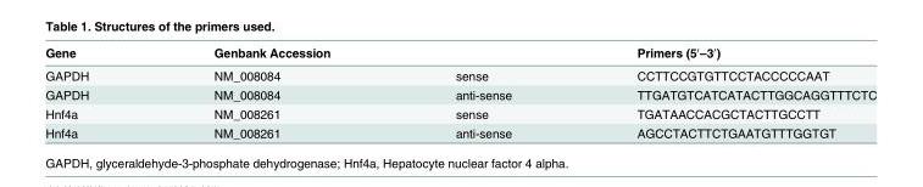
<table><thead><tr><td>Gene</td><td>Genbank Accession</td><td></td><td>Primers (5′–3′)</td></tr></thead><tbody><tr><td>GAPDH</td><td>NM_008084</td><td>sense</td><td>CCTTCCGTGTTCCTACCCCCAAT</td></tr><tr><td>GAPDH</td><td>NM_008084</td><td>anti-sense</td><td>TTGATGTCATCATACTTGGCAGGTTTCTC</td></tr><tr><td>Hnf4a</td><td>NM_008261</td><td>sense</td><td>TGATAACCACGCTACTTGCCTT</td></tr><tr><td>Hnf4a</td><td>NM_008261</td><td>anti-sense</td><td>AGCCTACTTCTGAATGTTTGGTGT</td></tr></tbody></table>